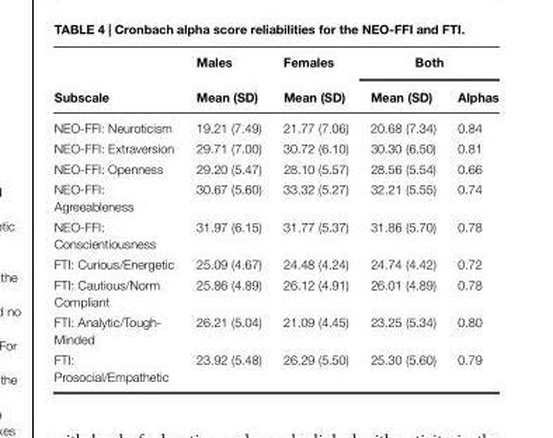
<table><thead><tr><td rowspan="2">Subscale</td><td rowspan="2">Males Mean (SD)</td><td rowspan="2">Females Mean (SD)</td><td colspan="2">Both</td></tr><tr><td>Mean (SD)</td><td>Alphas</td></tr></thead><tbody><tr><td>NEO-FFI: Neuroticism</td><td>19.21 (7.49)</td><td>21.77 (7.06)</td><td>20.68 (7.34)</td><td>0.84</td></tr><tr><td>NEO-FFI: Extraversion</td><td>29.71 (7.00)</td><td>30.72 (6.10)</td><td>30.30 (6.50)</td><td>0.81</td></tr><tr><td>NEO-FFI: Openness</td><td>29.20 (5.47)</td><td>28.10 (5.57)</td><td>28.56 (5.54)</td><td>0.66</td></tr><tr><td>NEO-FFI: Agreeableness</td><td>30.67 (5.60)</td><td>33.32 (5.27)</td><td>32.21 (5.55)</td><td>0.74</td></tr><tr><td>NEO-FFI: Conscientiousness</td><td>31.97 (6.15)</td><td>31.77 (5.37)</td><td>31.86 (5.70)</td><td>0.78</td></tr><tr><td>FTI: Curious/Energetic</td><td>25.09 (4.67)</td><td>24.48 (4.24)</td><td>24.74 (4.42)</td><td>0.72</td></tr><tr><td>FTI: Cautious/Norm Compliant</td><td>25.86 (4.89)</td><td>26.12 (4.91)</td><td>26.01 (4.89)</td><td>0.78</td></tr><tr><td>FTI: Analytic/Tough- Minded</td><td>26.21 (5.04)</td><td>21.09 (4.45)</td><td>23.25 (5.34)</td><td>0.80</td></tr><tr><td>FTI: Prosocial/Empathetic</td><td>23.92 (5.48)</td><td>26.29 (5.50)</td><td>25.30 (5.60)</td><td>0.79</td></tr></tbody></table>